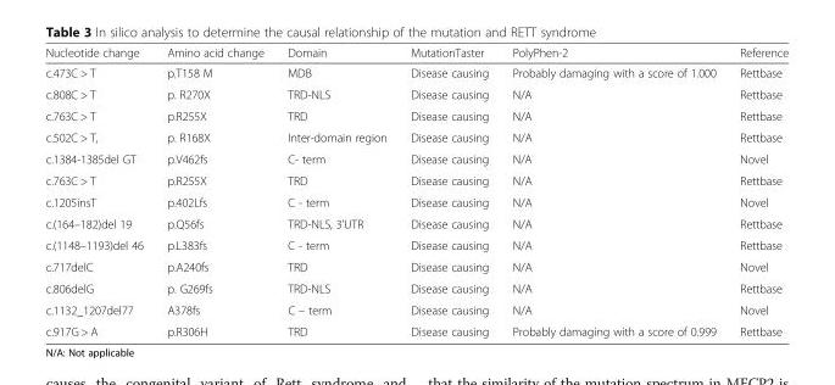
<table><thead><tr><td>Nucleotide change</td><td>Amino acid change</td><td>Domain</td><td>MutationTaster</td><td>PolyPhen-2</td><td>Reference</td></tr></thead><tbody><tr><td>c.473C &gt; T</td><td>p.T158 M</td><td>MDB</td><td>Disease causing</td><td>Probably damaging with a score of 1.000</td><td>Rettbase</td></tr><tr><td>c.808C &gt; T</td><td>p. R270X</td><td>TRD-NLS</td><td>Disease causing</td><td>N/A</td><td>Rettbase</td></tr><tr><td>c.763C &gt; T</td><td>p.R255X</td><td>TRD</td><td>Disease causing</td><td>N/A</td><td>Rettbase</td></tr><tr><td>c.502C &gt; T,</td><td>p. R168X</td><td>Inter-domain region</td><td>Disease causing</td><td>N/A</td><td>Rettbase</td></tr><tr><td>c.1384-1385del GT</td><td>p.V462fs</td><td>C- term</td><td>Disease causing</td><td>N/A</td><td>Novel</td></tr><tr><td>c.763C &gt; T</td><td>p.R255X</td><td>TRD</td><td>Disease causing</td><td>N/A</td><td>Rettbase</td></tr><tr><td>c.1205insT</td><td>p.402Lfs</td><td>C - term</td><td>Disease causing</td><td>N/A</td><td>Novel</td></tr><tr><td>c.(164–182)del 19</td><td>p.Q56fs</td><td>TRD-NLS, 3’UTR</td><td>Disease causing</td><td>N/A</td><td>Rettbase</td></tr><tr><td>c.(1148–1193)del 46</td><td>p.L383fs</td><td>C - term</td><td>Disease causing</td><td>N/A</td><td>Rettbase</td></tr><tr><td>c.717delC</td><td>p.A240fs</td><td>TRD</td><td>Disease causing</td><td>N/A</td><td>Novel</td></tr><tr><td>c.806delG</td><td>p. G269fs</td><td>TRD-NLS</td><td>Disease causing</td><td>N/A</td><td>Rettbase</td></tr><tr><td>c.1132_1207del77</td><td>A378fs</td><td>C – term</td><td>Disease causing</td><td>N/A</td><td>Novel</td></tr><tr><td>c.917G &gt; A</td><td>p.R306H</td><td>TRD</td><td>Disease causing</td><td>Probably damaging with a score of 0.999</td><td>Rettbase</td></tr></tbody></table>